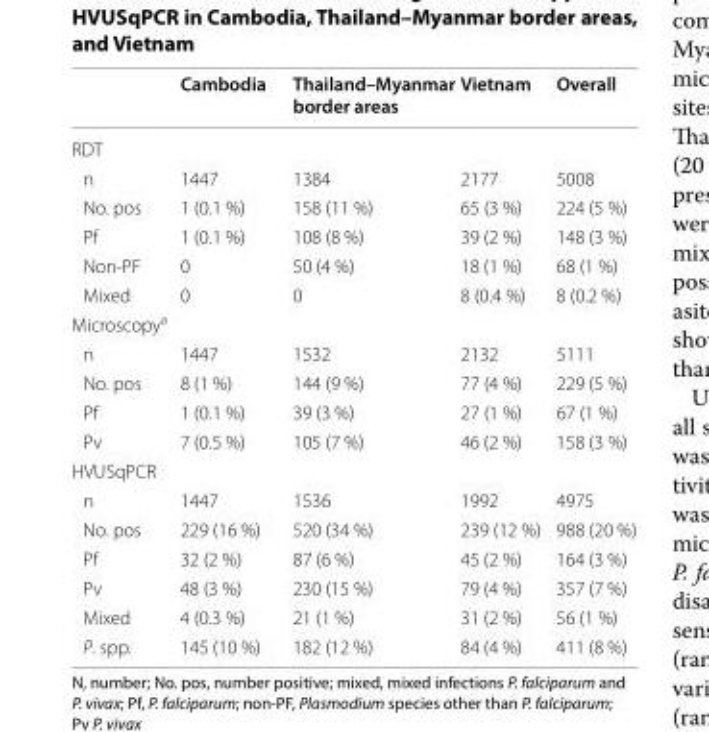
<table><thead><tr><td></td><td>Cambodia</td><td>Thailand–Myanmar border areas</td><td>Vietnam</td><td>Overall</td></tr></thead><tbody><tr><td colspan="5">RDT</td></tr><tr><td>n</td><td>1447</td><td>1384</td><td>2177</td><td>5008</td></tr><tr><td>No. pos</td><td>1 (0.1 %)</td><td>158 (11 %)</td><td>65 (3 %)</td><td>224 (5 %)</td></tr><tr><td>Pf</td><td>1 (0.1 %)</td><td>108 (8 %)</td><td>39 (2 %)</td><td>148 (3 %)</td></tr><tr><td>Non‑PF</td><td>0</td><td>50 (4 %)</td><td>18 (1 %)</td><td>68 (1 %)</td></tr><tr><td>Mixed</td><td>0</td><td>0</td><td>8 (0.4 %)</td><td>8 (0.2 %)</td></tr><tr><td colspan="5">Microscopy<sup>a</sup></td></tr><tr><td>n</td><td>1447</td><td>1532</td><td>2132</td><td>5111</td></tr><tr><td>No. pos</td><td>8 (1 %)</td><td>144 (9 %)</td><td>77 (4 %)</td><td>229 (5 %)</td></tr><tr><td>Pf</td><td>1 (0.1 %)</td><td>39 (3 %)</td><td>27 (1 %)</td><td>67 (1 %)</td></tr><tr><td>Pv</td><td>7 (0.5 %)</td><td>105 (7 %)</td><td>46 (2 %)</td><td>158 (3 %)</td></tr><tr><td colspan="5">HVUSqPCR</td></tr><tr><td>n</td><td>1447</td><td>1536</td><td>1992</td><td>4975</td></tr><tr><td>No. pos</td><td>229 (16 %)</td><td>520 (34 %)</td><td>239 (12 %)</td><td>988 (20 %)</td></tr><tr><td>Pf</td><td>32 (2 %)</td><td>87 (6 %)</td><td>45 (2 %)</td><td>164 (3 %)</td></tr><tr><td>Pv</td><td>48 (3 %)</td><td>230 (15 %)</td><td>79 (4 %)</td><td>357 (7 %)</td></tr><tr><td>Mixed</td><td>4 (0.3 %)</td><td>21 (1 %)</td><td>31 (2 %)</td><td>56 (1 %)</td></tr><tr><td>P. spp.</td><td>145 (10 %)</td><td>182 (12 %)</td><td>84 (4 %)</td><td>411 (8 %)</td></tr></tbody></table>